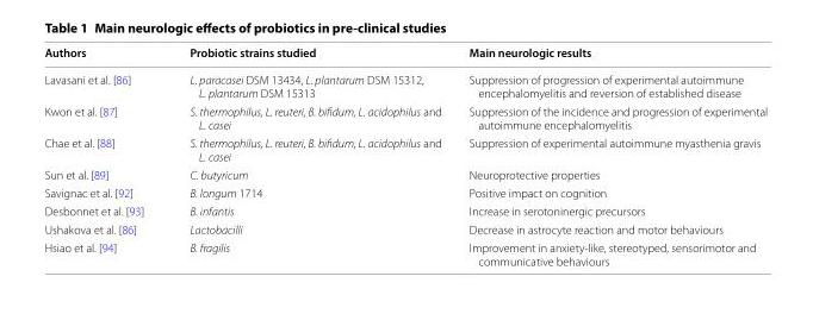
<table><thead><tr><td>Authors</td><td>Probiotic strains studied</td><td>Main neurologic results</td></tr></thead><tbody><tr><td>Lavasani et al. [86]</td><td>L. paracasei DSM 13434, L. plantarum DSM 15312, L. plantarum DSM 15313</td><td>Suppression of progression of experimental autoimmune encephalomyelitis and reversion of established disease</td></tr><tr><td>Kwon et al. [87]</td><td>S. thermophilus, L. reuteri, B. bifidum, L. acidophilus and L. casei</td><td>Suppression of the incidence and progression of experimental autoimmune encephalomyelitis</td></tr><tr><td>Chae et al. [88]</td><td>S. thermophilus, L. reuteri, B. bifidum, L. acidophilus and L. casei</td><td>Suppression of experimental autoimmune myasthenia gravis</td></tr><tr><td>Sun et al. [89]</td><td>C. butyricum</td><td>Neuroprotective properties</td></tr><tr><td>Savignac et al. [92]</td><td>B. longum 1714</td><td>Positive impact on cognition</td></tr><tr><td>Desbonnet et al. [93]</td><td>B. infantis</td><td>Increase in serotoninergic precursors</td></tr><tr><td>Ushakova et al. [86]</td><td>Lactobacilli</td><td>Decrease in astrocyte reaction and motor behaviours</td></tr><tr><td>Hsiao et al. [94]</td><td>B. fragilis</td><td>Improvement in anxiety-like, stereotyped, sensorimotor and communicative behaviours</td></tr></tbody></table>